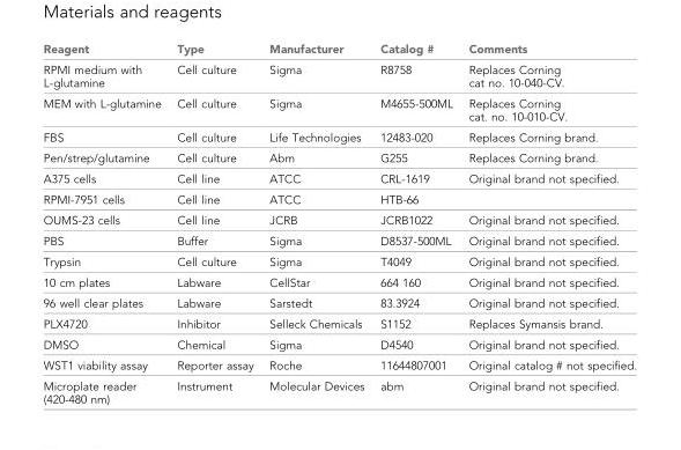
<table><thead><tr><td>Reagent</td><td>Type</td><td>Manufacturer</td><td>Catalog #</td><td>Comments</td></tr></thead><tbody><tr><td>RPMI medium with L-glutamine</td><td>Cell culture</td><td>Sigma</td><td>R8758</td><td>Replaces Corning cat no. 10-040-CV.</td></tr><tr><td>MEM with L-glutamine</td><td>Cell culture</td><td>Sigma</td><td>M4655-500ML</td><td>Replaces Corning cat. no. 10-010-CV.</td></tr><tr><td>FBS</td><td>Cell culture</td><td>Life Technologies</td><td>12483-020</td><td>Replaces Corning brand.</td></tr><tr><td>Pen/strep/glutamine</td><td>Cell culture</td><td>Abm</td><td>G255</td><td>Replaces Corning brand.</td></tr><tr><td>A375 cells</td><td>Cell line</td><td>ATCC</td><td>CRL-1619</td><td>Original brand not specified.</td></tr><tr><td>RPMI-7951 cells</td><td>Cell line</td><td>ATCC</td><td>HTB-66</td><td></td></tr><tr><td>OUMS-23 cells</td><td>Cell line</td><td>JCRB</td><td>JCRB1022</td><td>Original brand not specified.</td></tr><tr><td>PBS</td><td>Buffer</td><td>Sigma</td><td>D8537-500ML</td><td>Original brand not specified.</td></tr><tr><td>Trypsin</td><td>Cell culture</td><td>Sigma</td><td>T4049</td><td>Original brand not specified.</td></tr><tr><td>10 cm plates</td><td>Labware</td><td>CellStar</td><td>664 160</td><td>Original brand not specified.</td></tr><tr><td>96 well clear plates</td><td>Labware</td><td>Sarstedt</td><td>83.3924</td><td>Original brand not specified.</td></tr><tr><td>PLX4720</td><td>Inhibitor</td><td>Selleck Chemicals</td><td>S1152</td><td>Replaces Symansis brand.</td></tr><tr><td>DMSO</td><td>Chemical</td><td>Sigma</td><td>D4540</td><td>Original brand not specified.</td></tr><tr><td>WST1 viability assay</td><td>Reporter assay</td><td>Roche</td><td>11644807001</td><td>Original catalog # not specified.</td></tr><tr><td>Microplate reader (420-480 nm)</td><td>Instrument</td><td>Molecular Devices</td><td>abm</td><td>Original brand not specified.</td></tr></tbody></table>